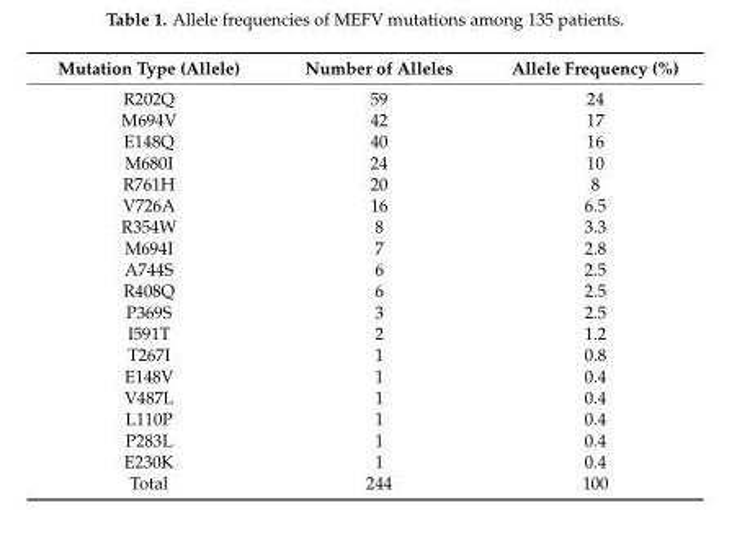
<table><thead><tr><td>Mutation Type (Allele)</td><td>Number of Alleles</td><td>Allele Frequency (%)</td></tr></thead><tbody><tr><td>R202Q</td><td>59</td><td>24</td></tr><tr><td>M694V</td><td>42</td><td>17</td></tr><tr><td>E148Q</td><td>40</td><td>16</td></tr><tr><td>M680I</td><td>24</td><td>10</td></tr><tr><td>R761H</td><td>20</td><td>8</td></tr><tr><td>V726A</td><td>16</td><td>6.5</td></tr><tr><td>R354W</td><td>8</td><td>3.3</td></tr><tr><td>M694I</td><td>7</td><td>2.8</td></tr><tr><td>A744S</td><td>6</td><td>2.5</td></tr><tr><td>R408Q</td><td>6</td><td>2.5</td></tr><tr><td>P369S</td><td>3</td><td>2.5</td></tr><tr><td>I591T</td><td>2</td><td>1.2</td></tr><tr><td>T267I</td><td>1</td><td>0.8</td></tr><tr><td>E148V</td><td>1</td><td>0.4</td></tr><tr><td>V487L</td><td>1</td><td>0.4</td></tr><tr><td>L110P</td><td>1</td><td>0.4</td></tr><tr><td>P283L</td><td>1</td><td>0.4</td></tr><tr><td>E230K</td><td>1</td><td>0.4</td></tr><tr><td>Total</td><td>244</td><td>100</td></tr></tbody></table>